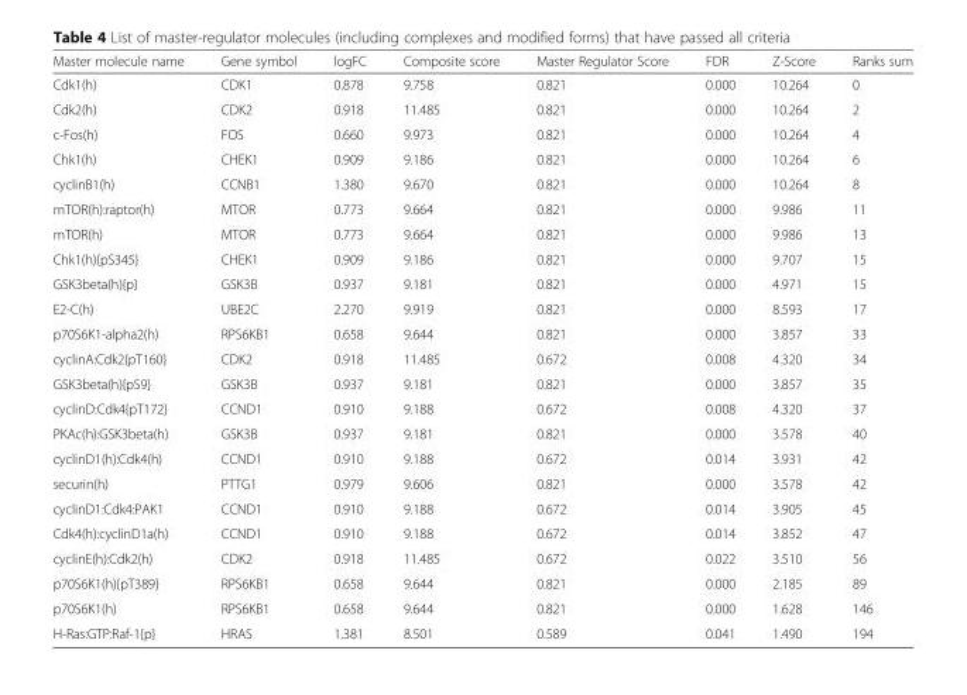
<table><thead><tr><td>Master molecule name</td><td>Gene symbol</td><td>logFC</td><td>Composite score</td><td>Master Regulator Score</td><td>FDR</td><td>Z-Score</td><td>Ranks sum</td></tr></thead><tbody><tr><td>Cdk1(h)</td><td>CDK1</td><td>0.878</td><td>9.758</td><td>0.821</td><td>0.000</td><td>10.264</td><td>0</td></tr><tr><td>Cdk2(h)</td><td>CDK2</td><td>0.918</td><td>11.485</td><td>0.821</td><td>0.000</td><td>10.264</td><td>2</td></tr><tr><td>c-Fos(h)</td><td>FOS</td><td>0.660</td><td>9.973</td><td>0.821</td><td>0.000</td><td>10.264</td><td>4</td></tr><tr><td>Chk1(h)</td><td>CHEK1</td><td>0.909</td><td>9.186</td><td>0.821</td><td>0.000</td><td>10.264</td><td>6</td></tr><tr><td>cyclinB1(h)</td><td>CCNB1</td><td>1.380</td><td>9.670</td><td>0.821</td><td>0.000</td><td>10.264</td><td>8</td></tr><tr><td>mTOR(h):raptor(h)</td><td>MTOR</td><td>0.773</td><td>9.664</td><td>0.821</td><td>0.000</td><td>9.986</td><td>11</td></tr><tr><td>mTOR(h)</td><td>MTOR</td><td>0.773</td><td>9.664</td><td>0.821</td><td>0.000</td><td>9.986</td><td>13</td></tr><tr><td>Chk1(h){pS345}</td><td>CHEK1</td><td>0.909</td><td>9.186</td><td>0.821</td><td>0.000</td><td>9.707</td><td>15</td></tr><tr><td>GSK3beta(h){p}</td><td>GSK3B</td><td>0.937</td><td>9.181</td><td>0.821</td><td>0.000</td><td>4.971</td><td>15</td></tr><tr><td>E2-C(h)</td><td>UBE2C</td><td>2.270</td><td>9.919</td><td>0.821</td><td>0.000</td><td>8.593</td><td>17</td></tr><tr><td>p70S6K1-alpha2(h)</td><td>RPS6KB1</td><td>0.658</td><td>9.644</td><td>0.821</td><td>0.000</td><td>3.857</td><td>33</td></tr><tr><td>cyclinA:Cdk2{pT160}</td><td>CDK2</td><td>0.918</td><td>11.485</td><td>0.672</td><td>0.008</td><td>4.320</td><td>34</td></tr><tr><td>GSK3beta(h){pS9}</td><td>GSK3B</td><td>0.937</td><td>9.181</td><td>0.821</td><td>0.000</td><td>3.857</td><td>35</td></tr><tr><td>cyclinD:Cdk4{pT172}</td><td>CCND1</td><td>0.910</td><td>9.188</td><td>0.672</td><td>0.008</td><td>4.320</td><td>37</td></tr><tr><td>PKAc(h):GSK3beta(h)</td><td>GSK3B</td><td>0.937</td><td>9.181</td><td>0.821</td><td>0.000</td><td>3.578</td><td>40</td></tr><tr><td>cyclinD1(h):Cdk4(h)</td><td>CCND1</td><td>0.910</td><td>9.188</td><td>0.672</td><td>0.014</td><td>3.931</td><td>42</td></tr><tr><td>securin(h)</td><td>PTTG1</td><td>0.979</td><td>9.606</td><td>0.821</td><td>0.000</td><td>3.578</td><td>42</td></tr><tr><td>cyclinD1:Cdk4:PAK1</td><td>CCND1</td><td>0.910</td><td>9.188</td><td>0.672</td><td>0.014</td><td>3.905</td><td>45</td></tr><tr><td>Cdk4(h):cyclinD1a(h)</td><td>CCND1</td><td>0.910</td><td>9.188</td><td>0.672</td><td>0.014</td><td>3.852</td><td>47</td></tr><tr><td>cyclinE(h):Cdk2(h)</td><td>CDK2</td><td>0.918</td><td>11.485</td><td>0.672</td><td>0.022</td><td>3.510</td><td>56</td></tr><tr><td>p70S6K1(h){pT389}</td><td>RPS6KB1</td><td>0.658</td><td>9.644</td><td>0.821</td><td>0.000</td><td>2.185</td><td>89</td></tr><tr><td>p70S6K1(h)</td><td>RPS6KB1</td><td>0.658</td><td>9.644</td><td>0.821</td><td>0.000</td><td>1.628</td><td>146</td></tr><tr><td>H-Ras:GTP:Raf-1{p}</td><td>HRAS</td><td>1.381</td><td>8.501</td><td>0.589</td><td>0.041</td><td>1.490</td><td>194</td></tr></tbody></table>